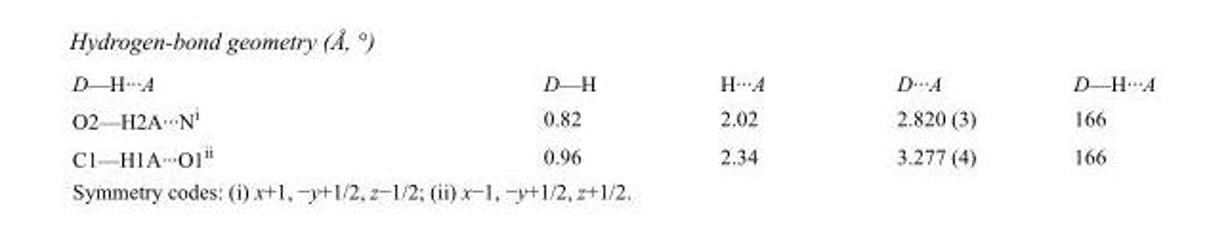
<table><tbody><tr><td>D—H···A</td><td>D—H</td><td>H···A</td><td>D···A</td><td>D—H···A</td></tr><tr><td>O2—H2A···N<sup>i</sup></td><td>0.82</td><td>2.02</td><td>2.820 (3)</td><td>166</td></tr><tr><td>C1—H1A···O1<sup>ii</sup></td><td>0.96</td><td>2.34</td><td>3.277 (4)</td><td>166</td></tr></tbody></table>